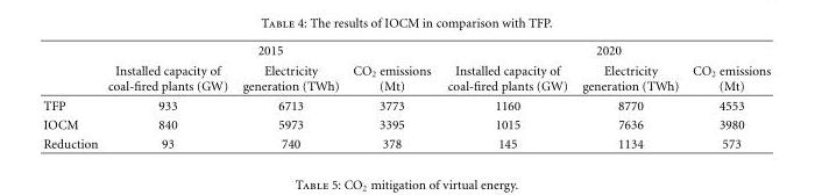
<table><thead><tr><td rowspan="2"></td><td colspan="3">2015</td><td colspan="3">2020</td></tr><tr><td>Installed capacity of coal-fired plants (GW)</td><td>Electricity generation (TWh)</td><td>CO<sub>2</sub> emissions (Mt)</td><td>Installed capacity of coal-fired plants (GW)</td><td>Electricity generation (TWh)</td><td>CO<sub>2</sub> emissions (Mt)</td></tr></thead><tbody><tr><td>TFP</td><td>933</td><td>6713</td><td>3773</td><td>1160</td><td>8770</td><td>4553</td></tr><tr><td>IOCM</td><td>840</td><td>5973</td><td>3395</td><td>1015</td><td>7636</td><td>3980</td></tr><tr><td>Reduction</td><td>93</td><td>740</td><td>378</td><td>145</td><td>1134</td><td>573</td></tr></tbody></table>